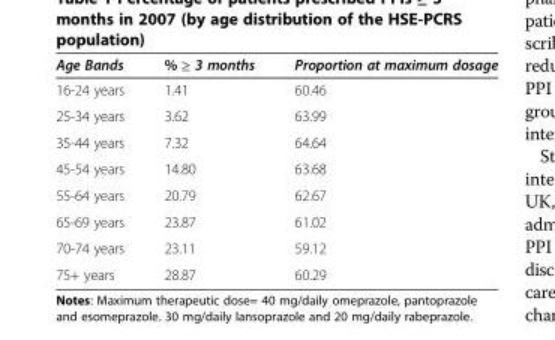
<table><thead><tr><td>Age Bands</td><td>% ≥ 3 months</td><td>Proportion at maximum dosage</td></tr></thead><tbody><tr><td>16-24 years</td><td>1.41</td><td>60.46</td></tr><tr><td>25-34 years</td><td>3.62</td><td>63.99</td></tr><tr><td>35-44 years</td><td>7.32</td><td>64.64</td></tr><tr><td>45-54 years</td><td>14.80</td><td>63.68</td></tr><tr><td>55-64 years</td><td>20.79</td><td>62.67</td></tr><tr><td>65-69 years</td><td>23.87</td><td>61.02</td></tr><tr><td>70-74 years</td><td>23.11</td><td>59.12</td></tr><tr><td>75+ years</td><td>28.87</td><td>60.29</td></tr></tbody></table>